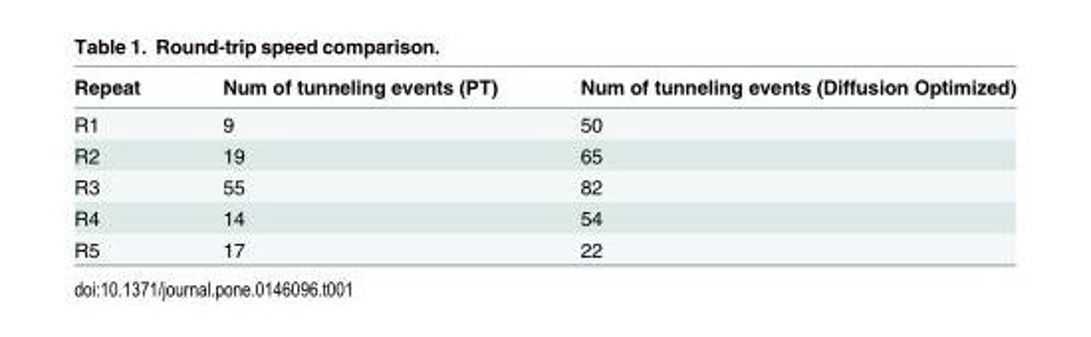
<table><thead><tr><td>Repeat</td><td>Num of tunneling events (PT)</td><td>Num of tunneling events (Diffusion Optimized)</td></tr></thead><tbody><tr><td>R1</td><td>9</td><td>50</td></tr><tr><td>R2</td><td>19</td><td>65</td></tr><tr><td>R3</td><td>55</td><td>82</td></tr><tr><td>R4</td><td>14</td><td>54</td></tr><tr><td>R5</td><td>17</td><td>22</td></tr></tbody></table>